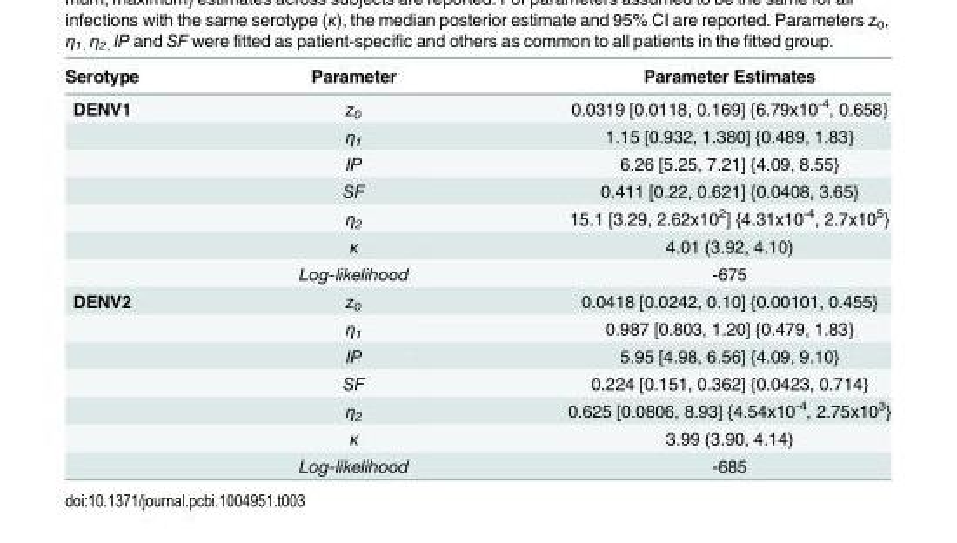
<table><thead><tr><td>Serotype</td><td>Parameter</td><td>Parameter Estimates</td></tr></thead><tbody><tr><td rowspan="7">DENV1</td><td>z<sub>0</sub></td><td>0.0319 [0.0118, 0.169] {6.79x10<sup>-4</sup>, 0.658}</td></tr><tr><td>η<sub>1</sub></td><td>1.15 [0.932, 1.380] {0.489, 1.83}</td></tr><tr><td>IP</td><td>6.26 [5.25, 7.21] {4.09, 8.55}</td></tr><tr><td>SF</td><td>0.411 [0.22, 0.621] {0.0408, 3.65}</td></tr><tr><td>η<sub>2</sub></td><td>15.1 [3.29, 2.62x10<sup>2</sup>] {4.31x10<sup>-4</sup>, 2.7x10<sup>5</sup>}</td></tr><tr><td>κ</td><td>4.01 (3.92, 4.10)</td></tr><tr><td>Log-likelihood</td><td>-675</td></tr><tr><td rowspan="7">DENV2</td><td>z<sub>0</sub></td><td>0.0418 [0.0242, 0.10] {0.00101, 0.455}</td></tr><tr><td>η<sub>1</sub></td><td>0.987 [0.803, 1.20] {0.479, 1.83}</td></tr><tr><td>IP</td><td>5.95 [4.98, 6.56] {4.09, 9.10}</td></tr><tr><td>SF</td><td>0.224 [0.151, 0.362] {0.0423, 0.714}</td></tr><tr><td>η<sub>2</sub></td><td>0.625 [0.0806, 8.93] {4.54x10<sup>-4</sup>, 2.75x10<sup>3</sup>}</td></tr><tr><td>κ</td><td>3.99 (3.90, 4.14)</td></tr><tr><td>Log-likelihood</td><td>-685</td></tr></tbody></table>